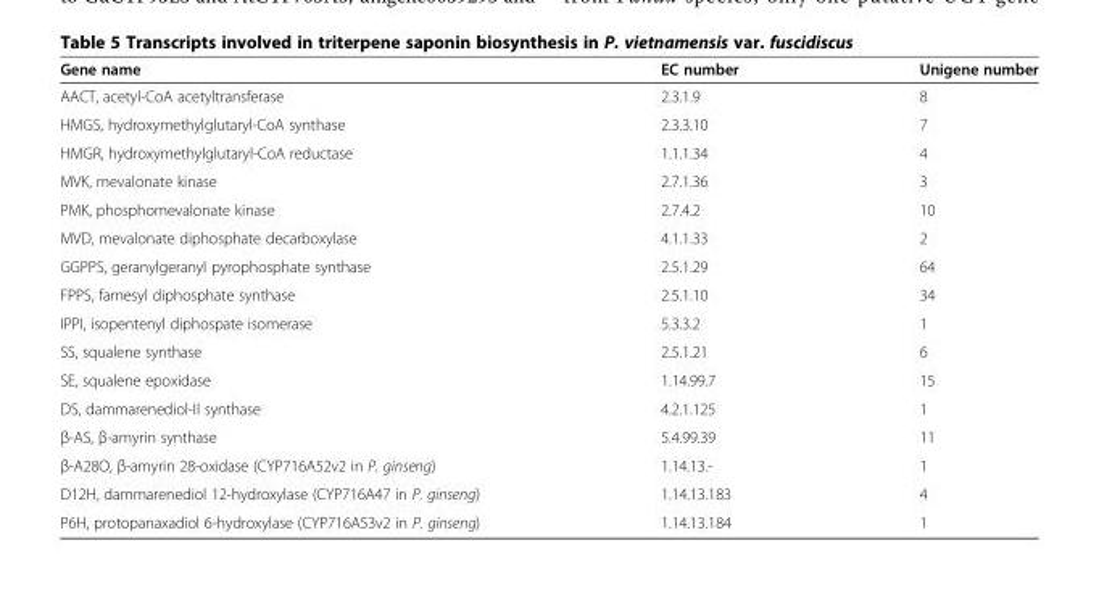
<table><thead><tr><td>Gene name</td><td>EC number</td><td>Unigene number</td></tr></thead><tbody><tr><td>AACT, acetyl-CoA acetyltransferase</td><td>2.3.1.9</td><td>8</td></tr><tr><td>HMGS, hydroxymethylglutaryl-CoA synthase</td><td>2.3.3.10</td><td>7</td></tr><tr><td>HMGR, hydroxymethylglutaryl-CoA reductase</td><td>1.1.1.34</td><td>4</td></tr><tr><td>MVK, mevalonate kinase</td><td>2.7.1.36</td><td>3</td></tr><tr><td>PMK, phosphomevalonate kinase</td><td>2.7.4.2</td><td>10</td></tr><tr><td>MVD, mevalonate diphosphate decarboxylase</td><td>4.1.1.33</td><td>2</td></tr><tr><td>GGPPS, geranylgeranyl pyrophosphate synthase</td><td>2.5.1.29</td><td>64</td></tr><tr><td>FPPS, farnesyl diphosphate synthase</td><td>2.5.1.10</td><td>34</td></tr><tr><td>IPPI, isopentenyl diphospate isomerase</td><td>5.3.3.2</td><td>1</td></tr><tr><td>SS, squalene synthase</td><td>2.5.1.21</td><td>6</td></tr><tr><td>SE, squalene epoxidase</td><td>1.14.99.7</td><td>15</td></tr><tr><td>DS, dammarenediol-II synthase</td><td>4.2.1.125</td><td>1</td></tr><tr><td>β-AS, β-amyrin synthase</td><td>5.4.99.39</td><td>11</td></tr><tr><td>β-A28O, β-amyrin 28-oxidase (CYP716A52v2 in P. ginseng)</td><td>1.14.13.-</td><td>1</td></tr><tr><td>D12H, dammarenediol 12-hydroxylase (CYP716A47 in P. ginseng)</td><td>1.14.13.183</td><td>4</td></tr><tr><td>P6H, protopanaxadiol 6-hydroxylase (CYP716A53v2 in P. ginseng)</td><td>1.14.13.184</td><td>1</td></tr></tbody></table>